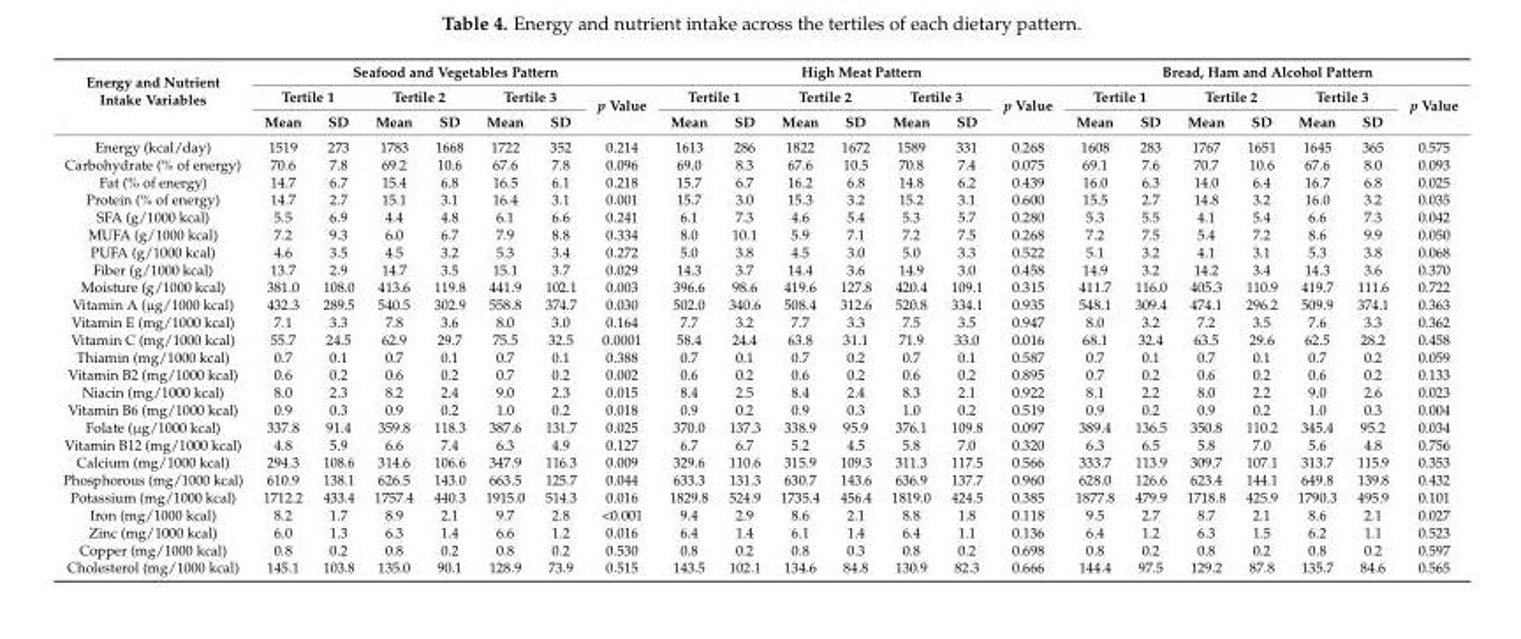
<table><thead><tr><td rowspan="3">Energy and Nutrient Intake Variables</td><td colspan="7">Seafood and Vegetables Pattern</td><td colspan="7">High Meat Pattern</td><td colspan="7">Bread, Ham and Alcohol Pattern</td></tr><tr><td colspan="2">Tertile 1</td><td colspan="2">Tertile 2</td><td colspan="2">Tertile 3</td><td rowspan="2">p Value</td><td colspan="2">Tertile 1</td><td colspan="2">Tertile 2</td><td colspan="2">Tertile 3</td><td rowspan="2">p Value</td><td colspan="2">Tertile 1</td><td colspan="2">Tertile 2</td><td colspan="2">Tertile 3</td><td rowspan="2">p Value</td></tr><tr><td>Mean</td><td>SD</td><td>Mean</td><td>SD</td><td>Mean</td><td>SD</td><td>Mean</td><td>SD</td><td>Mean</td><td>SD</td><td>Mean</td><td>SD</td><td>Mean</td><td>SD</td><td>Mean</td><td>SD</td><td>Mean</td><td>SD</td></tr></thead><tbody><tr><td>Energy (kcal/day)</td><td>1519</td><td>273</td><td>1783</td><td>1668</td><td>1722</td><td>352</td><td>0.214</td><td>1613</td><td>286</td><td>1822</td><td>1672</td><td>1589</td><td>331</td><td>0.268</td><td>1608</td><td>283</td><td>1767</td><td>1651</td><td>1645</td><td>365</td><td>0.575</td></tr><tr><td>Carbohydrate (% of energy)</td><td>70.6</td><td>7.8</td><td>69.2</td><td>10.6</td><td>67.6</td><td>7.8</td><td>0.096</td><td>69.0</td><td>8.3</td><td>67.6</td><td>10.5</td><td>70.8</td><td>7.4</td><td>0.075</td><td>69.1</td><td>7.6</td><td>70.7</td><td>10.6</td><td>67.6</td><td>8.0</td><td>0.093</td></tr><tr><td>Fat (% of energy)</td><td>14.7</td><td>6.7</td><td>15.4</td><td>6.8</td><td>16.5</td><td>6.1</td><td>0.218</td><td>15.7</td><td>6.7</td><td>16.2</td><td>6.8</td><td>14.8</td><td>6.2</td><td>0.439</td><td>16.0</td><td>6.3</td><td>14.0</td><td>6.4</td><td>16.7</td><td>6.8</td><td>0.025</td></tr><tr><td>Protein (% of energy)</td><td>14.7</td><td>2.7</td><td>15.1</td><td>3.1</td><td>16.4</td><td>3.1</td><td>0.001</td><td>15.7</td><td>3.0</td><td>15.3</td><td>3.2</td><td>15.2</td><td>3.1</td><td>0.600</td><td>15.5</td><td>2.7</td><td>14.8</td><td>3.2</td><td>16.0</td><td>3.2</td><td>0.035</td></tr><tr><td>SFA (g/1000 kcal)</td><td>5.5</td><td>6.9</td><td>4.4</td><td>4.8</td><td>6.1</td><td>6.6</td><td>0.241</td><td>6.1</td><td>7.3</td><td>4.6</td><td>5.4</td><td>5.3</td><td>5.7</td><td>0.280</td><td>5.3</td><td>5.5</td><td>4.1</td><td>5.4</td><td>6.6</td><td>7.3</td><td>0.042</td></tr><tr><td>MUFA (g/1000 kcal)</td><td>7.2</td><td>9.3</td><td>6.0</td><td>6.7</td><td>7.9</td><td>8.8</td><td>0.334</td><td>8.0</td><td>10.1</td><td>5.9</td><td>7.1</td><td>7.2</td><td>7.5</td><td>0.268</td><td>7.2</td><td>7.5</td><td>5.4</td><td>7.2</td><td>8.6</td><td>9.9</td><td>0.050</td></tr><tr><td>PUFA (g/1000 kcal)</td><td>4.6</td><td>3.5</td><td>4.5</td><td>3.2</td><td>5.3</td><td>3.4</td><td>0.272</td><td>5.0</td><td>3.8</td><td>4.5</td><td>3.0</td><td>5.0</td><td>3.3</td><td>0.522</td><td>5.1</td><td>3.2</td><td>4.1</td><td>3.1</td><td>5.3</td><td>3.8</td><td>0.068</td></tr><tr><td>Fiber (g/1000 kcal)</td><td>13.7</td><td>2.9</td><td>14.7</td><td>3.5</td><td>15.1</td><td>3.7</td><td>0.029</td><td>14.3</td><td>3.7</td><td>14.4</td><td>3.6</td><td>14.9</td><td>3.0</td><td>0.458</td><td>14.9</td><td>3.2</td><td>14.2</td><td>3.4</td><td>14.3</td><td>3.6</td><td>0.370</td></tr><tr><td>Moisture (g/1000 kcal)</td><td>381.0</td><td>108.0</td><td>413.6</td><td>119.8</td><td>441.9</td><td>102.1</td><td>0.003</td><td>396.6</td><td>98.6</td><td>419.6</td><td>127.8</td><td>420.4</td><td>109.1</td><td>0.315</td><td>411.7</td><td>116.0</td><td>405.3</td><td>110.9</td><td>419.7</td><td>111.6</td><td>0.722</td></tr><tr><td>Vitamin A (µg/1000 kcal)</td><td>432.3</td><td>289.5</td><td>540.5</td><td>302.9</td><td>558.8</td><td>374.7</td><td>0.030</td><td>502.0</td><td>340.6</td><td>508.4</td><td>312.6</td><td>520.8</td><td>334.1</td><td>0.935</td><td>548.1</td><td>309.4</td><td>474.1</td><td>296.2</td><td>509.9</td><td>374.1</td><td>0.363</td></tr><tr><td>Vitamin E (mg/1000 kcal)</td><td>7.1</td><td>3.3</td><td>7.8</td><td>3.6</td><td>8.0</td><td>3.0</td><td>0.164</td><td>7.7</td><td>3.2</td><td>7.7</td><td>3.3</td><td>7.5</td><td>3.5</td><td>0.947</td><td>8.0</td><td>3.2</td><td>7.2</td><td>3.5</td><td>7.6</td><td>3.3</td><td>0.362</td></tr><tr><td>Vitamin C (mg/1000 kcal)</td><td>55.7</td><td>24.5</td><td>62.9</td><td>29.7</td><td>75.5</td><td>32.5</td><td>0.0001</td><td>58.4</td><td>24.4</td><td>63.8</td><td>31.1</td><td>71.9</td><td>33.0</td><td>0.016</td><td>68.1</td><td>32.4</td><td>63.5</td><td>29.6</td><td>62.5</td><td>28.2</td><td>0.458</td></tr><tr><td>Thiamin (mg/1000 kcal)</td><td>0.7</td><td>0.1</td><td>0.7</td><td>0.1</td><td>0.7</td><td>0.1</td><td>0.388</td><td>0.7</td><td>0.1</td><td>0.7</td><td>0.2</td><td>0.7</td><td>0.1</td><td>0.587</td><td>0.7</td><td>0.1</td><td>0.7</td><td>0.1</td><td>0.7</td><td>0.2</td><td>0.059</td></tr><tr><td>Vitamin B2 (mg/1000 kcal)</td><td>0.6</td><td>0.2</td><td>0.6</td><td>0.2</td><td>0.7</td><td>0.2</td><td>0.002</td><td>0.6</td><td>0.2</td><td>0.6</td><td>0.2</td><td>0.6</td><td>0.2</td><td>0.895</td><td>0.7</td><td>0.2</td><td>0.6</td><td>0.2</td><td>0.6</td><td>0.2</td><td>0.133</td></tr><tr><td>Niacin (mg/1000 kcal)</td><td>8.0</td><td>2.3</td><td>8.2</td><td>2.4</td><td>9.0</td><td>2.3</td><td>0.015</td><td>8.4</td><td>2.5</td><td>8.4</td><td>2.4</td><td>8.3</td><td>2.1</td><td>0.922</td><td>8.1</td><td>2.2</td><td>8.0</td><td>2.2</td><td>9.0</td><td>2.6</td><td>0.023</td></tr><tr><td>Vitamin B6 (mg/1000 kcal)</td><td>0.9</td><td>0.3</td><td>0.9</td><td>0.2</td><td>1.0</td><td>0.2</td><td>0.018</td><td>0.9</td><td>0.2</td><td>0.9</td><td>0.3</td><td>1.0</td><td>0.2</td><td>0.519</td><td>0.9</td><td>0.2</td><td>0.9</td><td>0.2</td><td>1.0</td><td>0.3</td><td>0.004</td></tr><tr><td>Folate (µg/1000 kcal)</td><td>337.8</td><td>91.4</td><td>359.8</td><td>118.3</td><td>387.6</td><td>131.7</td><td>0.025</td><td>370.0</td><td>137.3</td><td>338.9</td><td>95.9</td><td>376.1</td><td>109.8</td><td>0.097</td><td>389.4</td><td>136.5</td><td>350.8</td><td>110.2</td><td>345.4</td><td>95.2</td><td>0.034</td></tr><tr><td>Vitamin B12 (mg/1000 kcal)</td><td>4.8</td><td>5.9</td><td>6.6</td><td>7.4</td><td>6.3</td><td>4.9</td><td>0.127</td><td>6.7</td><td>6.7</td><td>5.2</td><td>4.5</td><td>5.8</td><td>7.0</td><td>0.320</td><td>6.3</td><td>6.5</td><td>5.8</td><td>7.0</td><td>5.6</td><td>4.8</td><td>0.756</td></tr><tr><td>Calcium (mg/1000 kcal)</td><td>294.3</td><td>108.6</td><td>314.6</td><td>106.6</td><td>347.9</td><td>116.3</td><td>0.009</td><td>329.6</td><td>110.6</td><td>315.9</td><td>109.3</td><td>311.3</td><td>117.5</td><td>0.566</td><td>333.7</td><td>113.9</td><td>309.7</td><td>107.1</td><td>313.7</td><td>115.9</td><td>0.353</td></tr><tr><td>Phosphorous (mg/1000 kcal)</td><td>610.9</td><td>138.1</td><td>626.5</td><td>143.0</td><td>663.5</td><td>125.7</td><td>0.044</td><td>633.3</td><td>131.3</td><td>630.7</td><td>143.6</td><td>636.9</td><td>137.7</td><td>0.960</td><td>628.0</td><td>126.6</td><td>623.4</td><td>144.1</td><td>649.8</td><td>139.8</td><td>0.432</td></tr><tr><td>Potassium (mg/1000 kcal)</td><td>1712.2</td><td>433.4</td><td>1757.4</td><td>440.3</td><td>1915.0</td><td>514.3</td><td>0.016</td><td>1829.8</td><td>524.9</td><td>1735.4</td><td>456.4</td><td>1819.0</td><td>424.5</td><td>0.385</td><td>1877.8</td><td>479.9</td><td>1718.8</td><td>425.9</td><td>1790.3</td><td>495.9</td><td>0.101</td></tr><tr><td>Iron (mg/1000 kcal)</td><td>8.2</td><td>1.7</td><td>8.9</td><td>2.1</td><td>9.7</td><td>2.8</td><td>&lt;0.001</td><td>9.4</td><td>2.9</td><td>8.6</td><td>2.1</td><td>8.8</td><td>1.8</td><td>0.118</td><td>9.5</td><td>2.7</td><td>8.7</td><td>2.1</td><td>8.6</td><td>2.1</td><td>0.027</td></tr><tr><td>Zinc (mg/1000 kcal)</td><td>6.0</td><td>1.3</td><td>6.3</td><td>1.4</td><td>6.6</td><td>1.2</td><td>0.016</td><td>6.4</td><td>1.4</td><td>6.1</td><td>1.4</td><td>6.4</td><td>1.1</td><td>0.136</td><td>6.4</td><td>1.2</td><td>6.3</td><td>1.5</td><td>6.2</td><td>1.1</td><td>0.523</td></tr><tr><td>Copper (mg/1000 kcal)</td><td>0.8</td><td>0.2</td><td>0.8</td><td>0.2</td><td>0.8</td><td>0.2</td><td>0.530</td><td>0.8</td><td>0.2</td><td>0.8</td><td>0.3</td><td>0.8</td><td>0.2</td><td>0.698</td><td>0.8</td><td>0.2</td><td>0.8</td><td>0.2</td><td>0.8</td><td>0.2</td><td>0.597</td></tr><tr><td>Cholesterol (mg/1000 kcal)</td><td>145.1</td><td>103.8</td><td>135.0</td><td>90.1</td><td>128.9</td><td>73.9</td><td>0.515</td><td>143.5</td><td>102.1</td><td>134.6</td><td>84.8</td><td>130.9</td><td>82.3</td><td>0.666</td><td>144.4</td><td>97.5</td><td>129.2</td><td>87.8</td><td>135.7</td><td>84.6</td><td>0.565</td></tr></tbody></table>